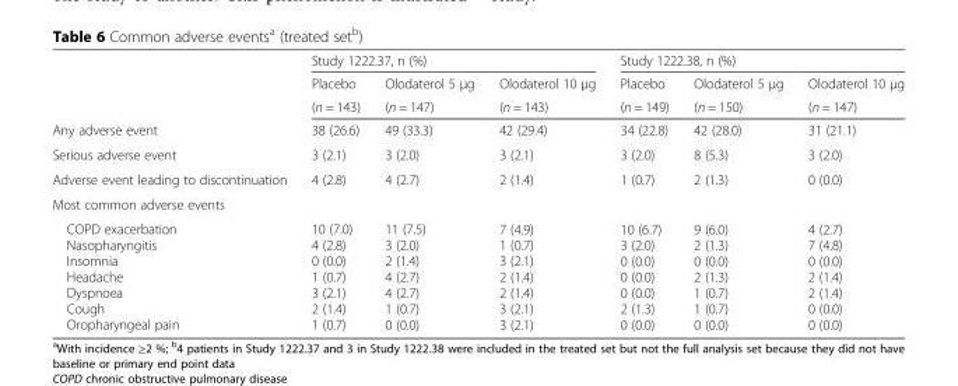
<table><thead><tr><td rowspan="3"></td><td colspan="3">Study 1222.37, n (%)</td><td colspan="3">Study 1222.38, n (%)</td></tr><tr><td rowspan="2">Placebo (n = 143)</td><td rowspan="2">Olodaterol 5 μg (n = 147)</td><td rowspan="2">Olodaterol 10 μg (n = 143)</td><td rowspan="2">Placebo (n = 149)</td><td rowspan="2">Olodaterol 5 μg (n = 150)</td><td rowspan="2">Olodaterol 10 μg (n = 147)</td></tr><tr></tr></thead><tbody><tr><td>Any adverse event</td><td>38 (26.6)</td><td>49 (33.3)</td><td>42 (29.4)</td><td>34 (22.8)</td><td>42 (28.0)</td><td>31 (21.1)</td></tr><tr><td>Serious adverse event</td><td>3 (2.1)</td><td>3 (2.0)</td><td>3 (2.1)</td><td>3 (2.0)</td><td>8 (5.3)</td><td>3 (2.0)</td></tr><tr><td>Adverse event leading to discontinuation</td><td>4 (2.8)</td><td>4 (2.7)</td><td>2 (1.4)</td><td>1 (0.7)</td><td>2 (1.3)</td><td>0 (0.0)</td></tr><tr><td colspan="7">Most common adverse events</td></tr><tr><td>COPD exacerbation Nasopharyngitis Insomnia Headache Dyspnoea Cough Oropharyngeal pain</td><td>10 (7.0) 4 (2.8) 0 (0.0) 1 (0.7) 3 (2.1) 2 (1.4) 1 (0.7)</td><td>11 (7.5) 3 (2.0) 2 (1.4) 4 (2.7) 4 (2.7) 1 (0.7) 0 (0.0)</td><td>7 (4.9) 1 (0.7) 3 (2.1) 2 (1.4) 2 (1.4) 3 (2.1) 3 (2.1)</td><td>10 (6.7) 3 (2.0) 0 (0.0) 0 (0.0) 0 (0.0) 2 (1.3) 0 (0.0)</td><td>9 (6.0) 2 (1.3) 0 (0.0) 2 (1.3) 1 (0.7) 1 (0.7) 0 (0.0)</td><td>4 (2.7) 7 (4.8) 0 (0.0) 2 (1.4) 2 (1.4) 0 (0.0) 0 (0.0)</td></tr></tbody></table>